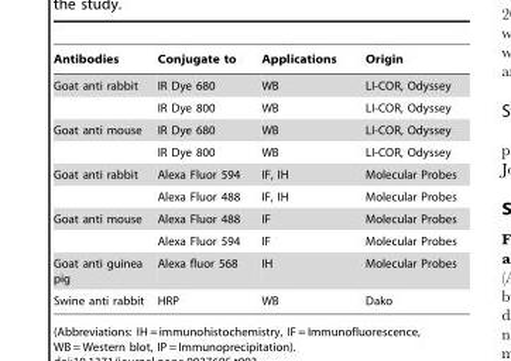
<table><thead><tr><td>Antibodies</td><td>Conjugate to</td><td>Applications</td><td>Origin</td></tr></thead><tbody><tr><td rowspan="2">Goat anti rabbit</td><td>IR Dye 680</td><td>WB</td><td>LI-COR, Odyssey</td></tr><tr><td>IR Dye 800</td><td>WB</td><td>LI-COR, Odyssey</td></tr><tr><td rowspan="2">Goat anti mouse</td><td>IR Dye 680</td><td>WB</td><td>LI-COR, Odyssey</td></tr><tr><td>IR Dye 800</td><td>WB</td><td>LI-COR, Odyssey</td></tr><tr><td rowspan="2">Goat anti rabbit</td><td>Alexa Fluor 594</td><td>IF, IH</td><td>Molecular Probes</td></tr><tr><td>Alexa Fluor 488</td><td>IF, IH</td><td>Molecular Probes</td></tr><tr><td rowspan="2">Goat anti mouse</td><td>Alexa Fluor 488</td><td>IF</td><td>Molecular Probes</td></tr><tr><td>Alexa Fluor 594</td><td>IF</td><td>Molecular Probes</td></tr><tr><td>Goat anti guinea pig</td><td>Alexa fluor 568</td><td>IH</td><td>Molecular Probes</td></tr><tr><td>Swine anti rabbit</td><td>HRP</td><td>WB</td><td>Dako</td></tr></tbody></table>